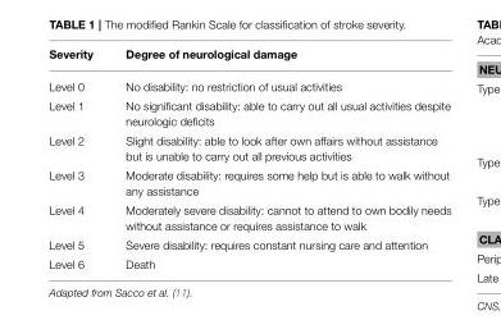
<table><thead><tr><td>Severity</td><td>Degree of neurological damage</td></tr></thead><tbody><tr><td>Level 0</td><td>No disability: no restriction of usual activities</td></tr><tr><td>Level 1</td><td>No significant disability: able to carry out all usual activities despite neurologic deficits</td></tr><tr><td>Level 2</td><td>Slight disability: able to look after own affairs without assistance but is unable to carry out all previous activities</td></tr><tr><td>Level 3</td><td>Moderate disability: requires some help but is able to walk without any assistance</td></tr><tr><td>Level 4</td><td>Moderately severe disability: cannot to attend to own bodily needs without assistance or requires assistance to walk</td></tr><tr><td>Level 5</td><td>Severe disability: requires constant nursing care and attention</td></tr><tr><td>Level 6</td><td>Death</td></tr></tbody></table>